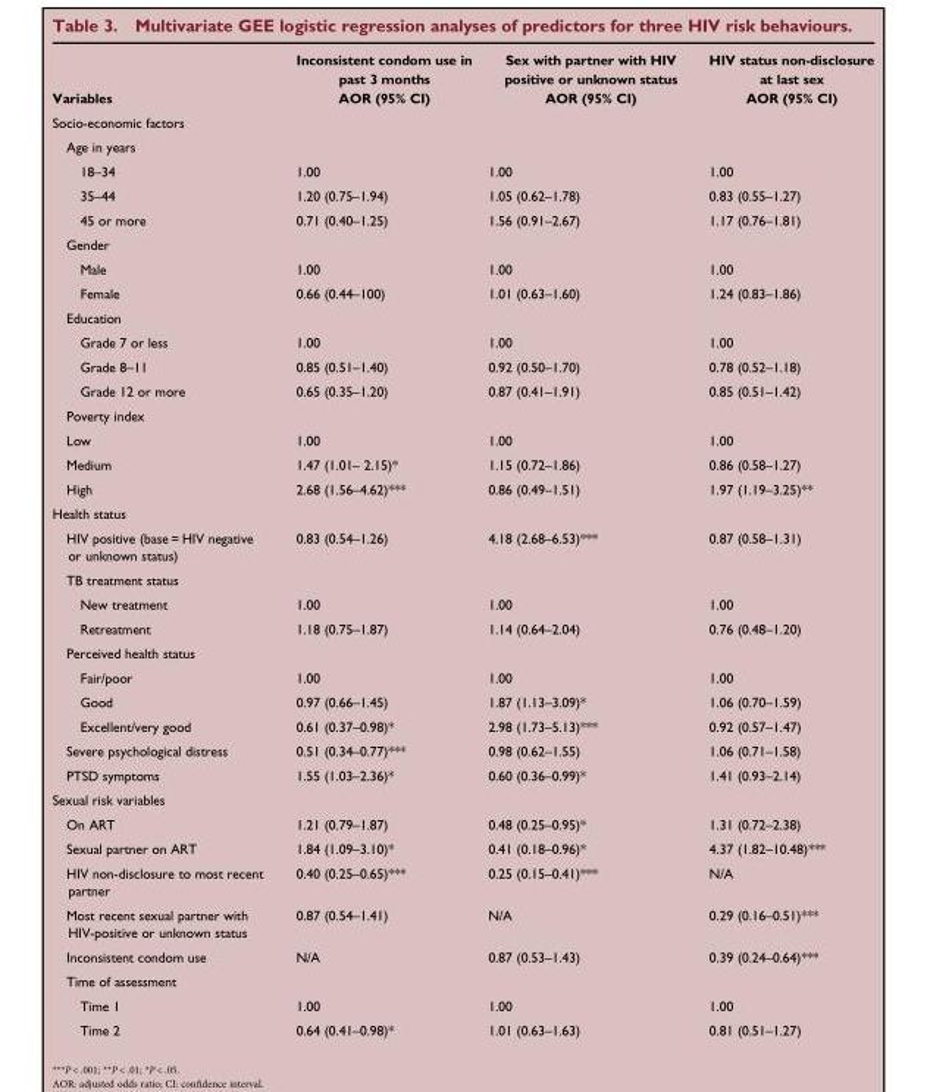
<table><thead><tr><td rowspan="2">Variables</td><td rowspan="2">Inconsistent condom use in past 3 months AOR (95% CI)</td><td rowspan="2">Sex with partner with HIV positive or unknown status AOR (95% CI)</td><td rowspan="2">HIV status non-disclosure at last sex AOR (95% CI)</td></tr><tr></tr></thead><tbody><tr><td colspan="4">Socio-economic factors</td></tr><tr><td colspan="4">Age in years</td></tr><tr><td>18–34</td><td>1.00</td><td>1.00</td><td>1.00</td></tr><tr><td>35–44</td><td>1.20 (0.75–1.94)</td><td>1.05 (0.62–1.78)</td><td>0.83 (0.55–1.27)</td></tr><tr><td>45 or more</td><td>0.71 (0.40–1.25)</td><td>1.56 (0.91–2.67)</td><td>1.17 (0.76–1.81)</td></tr><tr><td colspan="4">Gender</td></tr><tr><td>Male</td><td>1.00</td><td>1.00</td><td>1.00</td></tr><tr><td>Female</td><td>0.66 (0.44–100)</td><td>1.01 (0.63–1.60)</td><td>1.24 (0.83–1.86)</td></tr><tr><td colspan="4">Education</td></tr><tr><td>Grade 7 or less</td><td>1.00</td><td>1.00</td><td>1.00</td></tr><tr><td>Grade 8–11</td><td>0.85 (0.51–1.40)</td><td>0.92 (0.50–1.70)</td><td>0.78 (0.52–1.18)</td></tr><tr><td>Grade 12 or more</td><td>0.65 (0.35–1.20)</td><td>0.87 (0.41–1.91)</td><td>0.85 (0.51–1.42)</td></tr><tr><td colspan="4">Poverty index</td></tr><tr><td>Low</td><td>1.00</td><td>1.00</td><td>1.00</td></tr><tr><td>Medium</td><td>1.47 (1.01– 2.15)*</td><td>1.15 (0.72–1.86)</td><td>0.86 (0.58–1.27)</td></tr><tr><td>High</td><td>2.68 (1.56–4.62)***</td><td>0.86 (0.49–1.51)</td><td>1.97 (1.19–3.25)**</td></tr><tr><td colspan="4">Health status</td></tr><tr><td>HIV positive (base = HIV negative or unknown status)</td><td>0.83 (0.54–1.26)</td><td>4.18 (2.68–6.53)***</td><td>0.87 (0.58–1.31)</td></tr><tr><td colspan="4">TB treatment status</td></tr><tr><td>New treatment</td><td>1.00</td><td>1.00</td><td>1.00</td></tr><tr><td>Retreatment</td><td>1.18 (0.75–1.87)</td><td>1.14 (0.64–2.04)</td><td>0.76 (0.48–1.20)</td></tr><tr><td colspan="4">Perceived health status</td></tr><tr><td>Fair/poor</td><td>1.00</td><td>1.00</td><td>1.00</td></tr><tr><td>Good</td><td>0.97 (0.66–1.45)</td><td>1.87 (1.13–3.09)*</td><td>1.06 (0.70–1.59)</td></tr><tr><td>Excellent/very good</td><td>0.61 (0.37–0.98)*</td><td>2.98 (1.73–5.13)***</td><td>0.92 (0.57–1.47)</td></tr><tr><td>Severe psychological distress</td><td>0.51 (0.34–0.77)***</td><td>0.98 (0.62–1.55)</td><td>1.06 (0.71–1.58)</td></tr><tr><td>PTSD symptoms</td><td>1.55 (1.03–2.36)*</td><td>0.60 (0.36–0.99)*</td><td>1.41 (0.93–2.14)</td></tr><tr><td colspan="4">Sexual risk variables</td></tr><tr><td>On ART</td><td>1.21 (0.79–1.87)</td><td>0.48 (0.25–0.95)*</td><td>1.31 (0.72–2.38)</td></tr><tr><td>Sexual partner on ART</td><td>1.84 (1.09–3.10)*</td><td>0.41 (0.18–0.96)*</td><td>4.37 (1.82–10.48)***</td></tr><tr><td>HIV non-disclosure to most recent partner</td><td>0.40 (0.25–0.65)***</td><td>0.25 (0.15–0.41)***</td><td>N/A</td></tr><tr><td>Most recent sexual partner with HIV-positive or unknown status</td><td>0.87 (0.54–1.41)</td><td>N/A</td><td>0.29 (0.16–0.51)***</td></tr><tr><td>Inconsistent condom use</td><td>N/A</td><td>0.87 (0.53–1.43)</td><td>0.39 (0.24–0.64)***</td></tr><tr><td colspan="4">Time of assessment</td></tr><tr><td>Time 1</td><td>1.00</td><td>1.00</td><td>1.00</td></tr><tr><td>Time 2</td><td>0.64 (0.41–0.98)*</td><td>1.01 (0.63–1.63)</td><td>0.81 (0.51–1.27)</td></tr></tbody></table>